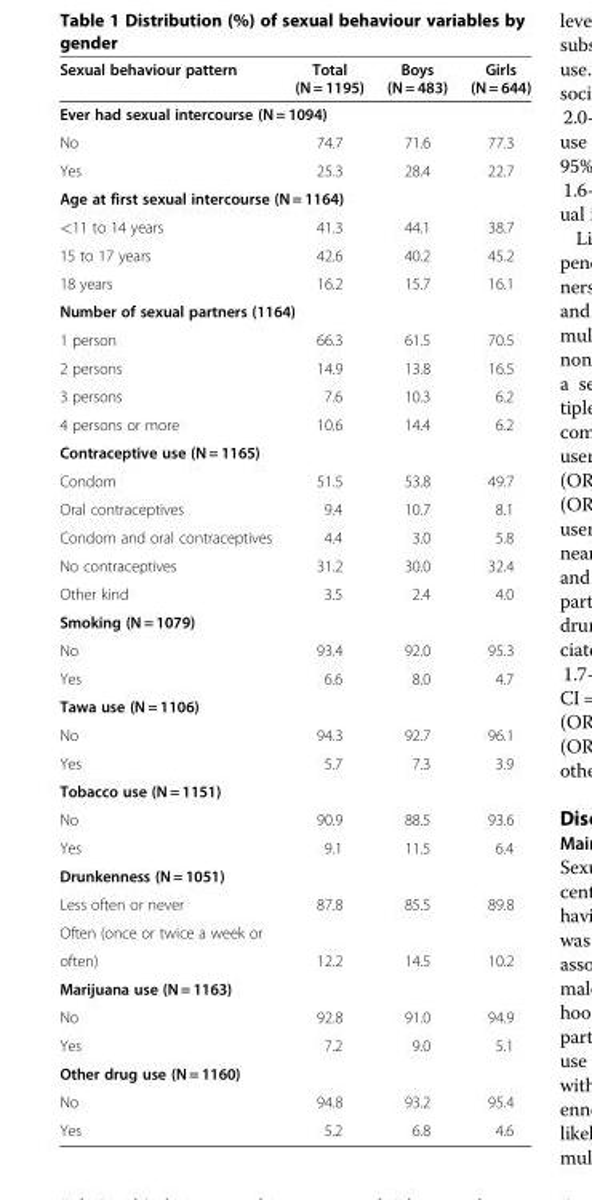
<table><thead><tr><td>Sexual behaviour pattern</td><td>Total (N = 1195)</td><td>Boys (N = 483)</td><td>Girls (N = 644)</td></tr></thead><tbody><tr><td colspan="4">Ever had sexual intercourse (N = 1094)</td></tr><tr><td>No</td><td>74.7</td><td>71.6</td><td>77.3</td></tr><tr><td>Yes</td><td>25.3</td><td>28.4</td><td>22.7</td></tr><tr><td colspan="4">Age at first sexual intercourse (N = 1164)</td></tr><tr><td>&lt;11 to 14 years</td><td>41.3</td><td>44.1</td><td>38.7</td></tr><tr><td>15 to 17 years</td><td>42.6</td><td>40.2</td><td>45.2</td></tr><tr><td>18 years</td><td>16.2</td><td>15.7</td><td>16.1</td></tr><tr><td colspan="4">Number of sexual partners (1164)</td></tr><tr><td>1 person</td><td>66.3</td><td>61.5</td><td>70.5</td></tr><tr><td>2 persons</td><td>14.9</td><td>13.8</td><td>16.5</td></tr><tr><td>3 persons</td><td>7.6</td><td>10.3</td><td>6.2</td></tr><tr><td>4 persons or more</td><td>10.6</td><td>14.4</td><td>6.2</td></tr><tr><td colspan="4">Contraceptive use (N = 1165)</td></tr><tr><td>Condom</td><td>51.5</td><td>53.8</td><td>49.7</td></tr><tr><td>Oral contraceptives</td><td>9.4</td><td>10.7</td><td>8.1</td></tr><tr><td>Condom and oral contraceptives</td><td>4.4</td><td>3.0</td><td>5.8</td></tr><tr><td>No contraceptives</td><td>31.2</td><td>30.0</td><td>32.4</td></tr><tr><td>Other kind</td><td>3.5</td><td>2.4</td><td>4.0</td></tr><tr><td colspan="4">Smoking (N = 1079)</td></tr><tr><td>No</td><td>93.4</td><td>92.0</td><td>95.3</td></tr><tr><td>Yes</td><td>6.6</td><td>8.0</td><td>4.7</td></tr><tr><td colspan="4">Tawa use (N = 1106)</td></tr><tr><td>No</td><td>94.3</td><td>92.7</td><td>96.1</td></tr><tr><td>Yes</td><td>5.7</td><td>7.3</td><td>3.9</td></tr><tr><td colspan="4">Tobacco use (N = 1151)</td></tr><tr><td>No</td><td>90.9</td><td>88.5</td><td>93.6</td></tr><tr><td>Yes</td><td>9.1</td><td>11.5</td><td>6.4</td></tr><tr><td colspan="4">Drunkenness (N = 1051)</td></tr><tr><td>Less often or never</td><td>87.8</td><td>85.5</td><td>89.8</td></tr><tr><td colspan="4">Often (once or twice a week or</td></tr><tr><td>often)</td><td>12.2</td><td>14.5</td><td>10.2</td></tr><tr><td colspan="4">Marijuana use (N = 1163)</td></tr><tr><td>No</td><td>92.8</td><td>91.0</td><td>94.9</td></tr><tr><td>Yes</td><td>7.2</td><td>9.0</td><td>5.1</td></tr><tr><td colspan="4">Other drug use (N = 1160)</td></tr><tr><td>No</td><td>94.8</td><td>93.2</td><td>95.4</td></tr><tr><td>Yes</td><td>5.2</td><td>6.8</td><td>4.6</td></tr></tbody></table>